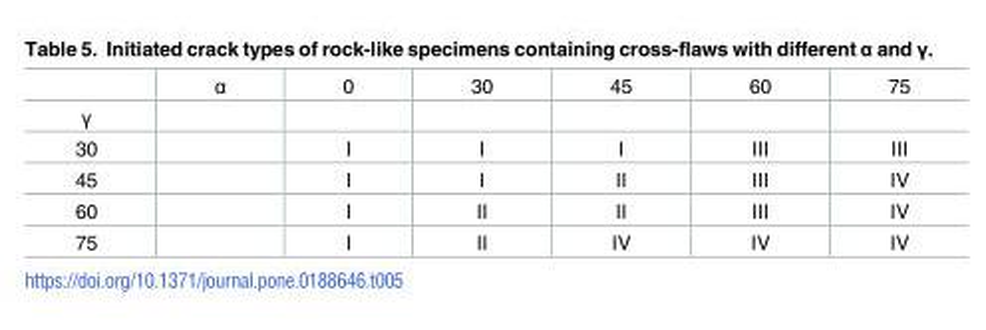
<table><thead><tr><td></td><td>α</td><td>0</td><td>30</td><td>45</td><td>60</td><td>75</td></tr></thead><tbody><tr><td colspan="7">γ</td></tr><tr><td>30</td><td></td><td>I</td><td>I</td><td>I</td><td>III</td><td>III</td></tr><tr><td>45</td><td></td><td>I</td><td>I</td><td>II</td><td>III</td><td>IV</td></tr><tr><td>60</td><td></td><td>I</td><td>II</td><td>II</td><td>III</td><td>IV</td></tr><tr><td>75</td><td></td><td>I</td><td>II</td><td>IV</td><td>IV</td><td>IV</td></tr></tbody></table>